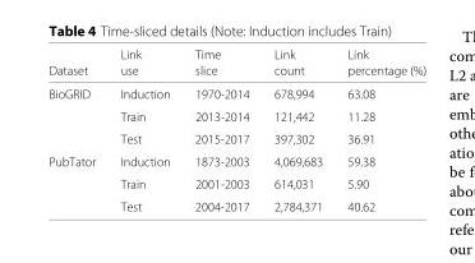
<table><thead><tr><td rowspan="2">Dataset</td><td rowspan="2">Link use</td><td rowspan="2">Time slice</td><td rowspan="2">Link count</td><td rowspan="2">Link percentage (%)</td></tr><tr></tr></thead><tbody><tr><td rowspan="3">BioGRID</td><td>Induction</td><td>1970-2014</td><td>678,994</td><td>63.08</td></tr><tr><td>Train</td><td>2013-2014</td><td>121,442</td><td>11.28</td></tr><tr><td>Test</td><td>2015-2017</td><td>397,302</td><td>36.91</td></tr><tr><td rowspan="3">PubTator</td><td>Induction</td><td>1873-2003</td><td>4,069,683</td><td>59.38</td></tr><tr><td>Train</td><td>2001-2003</td><td>614,031</td><td>5.90</td></tr><tr><td>Test</td><td>2004-2017</td><td>2,784,371</td><td>40.62</td></tr></tbody></table>